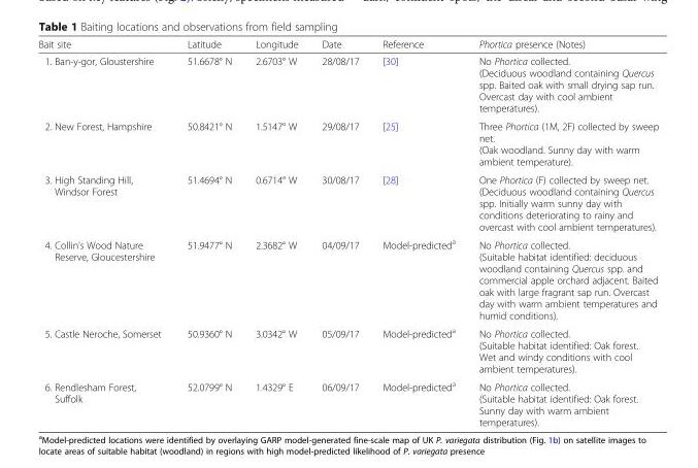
<table><thead><tr><td>Bait site</td><td>Latitude</td><td>Longitude</td><td>Date</td><td>Reference</td><td>Phortica presence (Notes)</td></tr></thead><tbody><tr><td>1. Ban-y-gor, Gloustershire</td><td>51.6678° N</td><td>2.6703° W</td><td>28/08/17</td><td>[30]</td><td>No Phortica collected. (Deciduous woodland containing Quercus spp. Baited oak with small drying sap run. Overcast day with cool ambient temperatures).</td></tr><tr><td>2. New Forest, Hampshire</td><td>50.8421° N</td><td>1.5147° W</td><td>29/08/17</td><td>[25]</td><td>Three Phortica (1M, 2F) collected by sweep net. (Oak woodland. Sunny day with warm ambient temperature).</td></tr><tr><td>3. High Standing Hill, Windsor Forest</td><td>51.4694° N</td><td>0.6714° W</td><td>30/08/17</td><td>[28]</td><td>One Phortica (F) collected by sweep net. (Deciduous woodland containing Quercus spp. Initially warm sunny day with conditions deteriorating to rainy and overcast with cool ambient temperatures).</td></tr><tr><td>4. Collin’s Wood Nature Reserve, Gloucestershire</td><td>51.9477° N</td><td>2.3682° W</td><td>04/09/17</td><td>Model-predicted<sup>a</sup></td><td>No Phortica collected. (Suitable habitat identified: deciduous woodland containing Quercus spp. and commercial apple orchard adjacent. Baited oak with large fragrant sap run. Overcast day with warm ambient temperatures and humid conditions).</td></tr><tr><td>5. Castle Neroche, Somerset</td><td>50.9360° N</td><td>3.0342° W</td><td>05/09/17</td><td>Model-predicted<sup>a</sup></td><td>No Phortica collected. (Suitable habitat identified: Oak forest. Wet and windy conditions with cool ambient temperatures).</td></tr><tr><td>6. Rendlesham Forest, Suffolk</td><td>52.0799° N</td><td>1.4329° E</td><td>06/09/17</td><td>Model-predicted<sup>a</sup></td><td>No Phortica collected. (Suitable habitat identified: Oak forest. Sunny day with warm ambient temperatures).</td></tr></tbody></table>